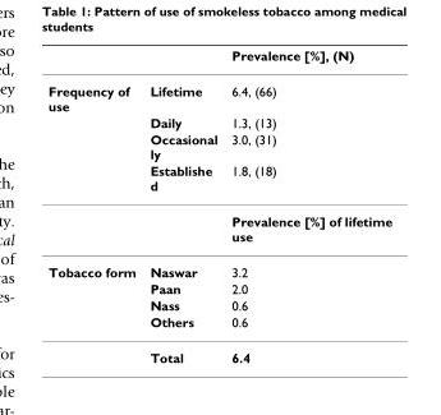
<table><thead><tr><td></td><td></td><td>Prevalence [%], (N)</td></tr></thead><tbody><tr><td rowspan="5">Frequency of use</td><td>Lifetime</td><td>6.4, (66)</td></tr><tr><td>Daily</td><td>1.3, (13)</td></tr><tr><td>Occasional ly</td><td>3.0, (31)</td></tr><tr><td>Establishe d</td><td>1.8, (18)</td></tr><tr><td></td><td>Prevalence [%] of lifetime use</td></tr><tr><td rowspan="5">Tobacco form</td><td>Naswar</td><td>3.2</td></tr><tr><td>Paan</td><td>2.0</td></tr><tr><td>Nass</td><td>0.6</td></tr><tr><td>Others</td><td>0.6</td></tr><tr><td>Total</td><td>6.4</td></tr></tbody></table>